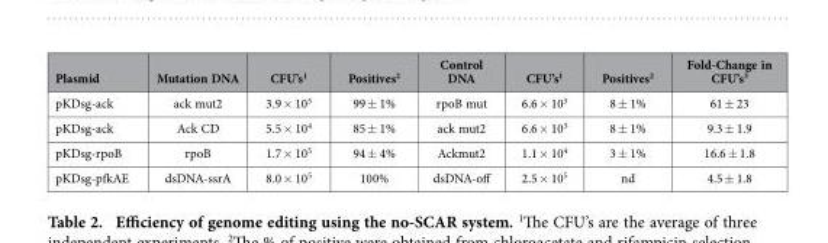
<table><thead><tr><td>Plasmid</td><td>Mutation DNA</td><td>CFU’s<sup>1</sup></td><td>Positives<sup>2</sup></td><td>Control DNA</td><td>CFU’s<sup>1</sup></td><td>Positives<sup>2</sup></td><td>Fold-Change in CFU’s<sup>3</sup></td></tr></thead><tbody><tr><td>pKDsg-ack</td><td>ack mut2</td><td>3.9 × 10<sup>5</sup></td><td>99 ± 1%</td><td>rpoB mut</td><td>6.6 × 10<sup>3</sup></td><td>8 ± 1%</td><td>61 ± 23</td></tr><tr><td>pKDsg-ack</td><td>Ack CD</td><td>5.5 × 10<sup>4</sup></td><td>85 ± 1%</td><td>ack mut2</td><td>6.6 × 10<sup>3</sup></td><td>8 ± 1%</td><td>9.3 ± 1.9</td></tr><tr><td>pKDsg-rpoB</td><td>rpoB</td><td>1.7 × 10<sup>5</sup></td><td>94 ± 4%</td><td>Ackmut2</td><td>1.1 × 10<sup>4</sup></td><td>3 ± 1%</td><td>16.6 ± 1.8</td></tr><tr><td>pKDsg-pfkAE</td><td>dsDNA-ssrA</td><td>8.0 × 10<sup>5</sup></td><td>100%</td><td>dsDNA-off</td><td>2.5 × 10<sup>5</sup></td><td>nd</td><td>4.5 ± 1.8</td></tr></tbody></table>